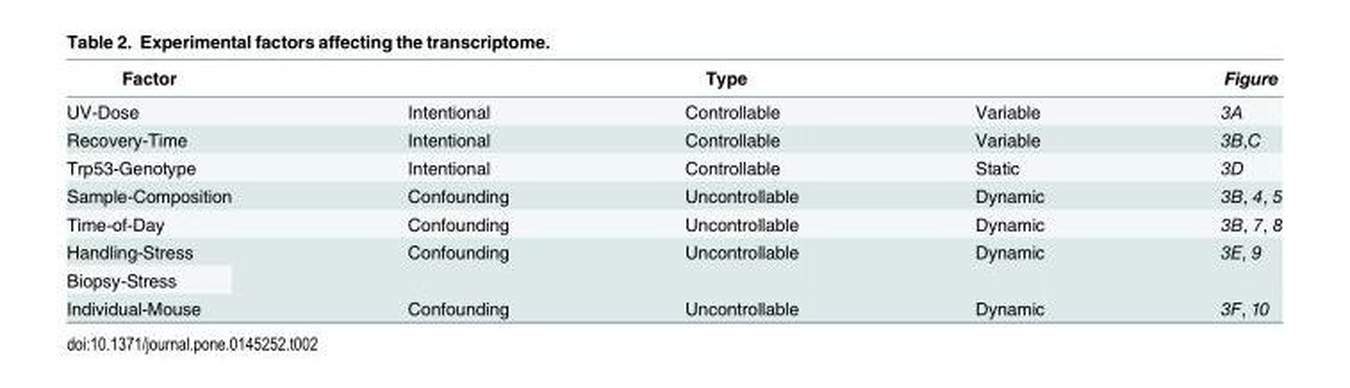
<table><thead><tr><td rowspan="2">Factor UV-Dose</td><td colspan="3">Type</td><td rowspan="2">Figure 3A</td></tr><tr><td>Intentional</td><td>Controllable</td><td>Variable</td></tr></thead><tbody><tr><td>Recovery-Time</td><td>Intentional</td><td>Controllable</td><td>Variable</td><td>3B,C</td></tr><tr><td>Trp53-Genotype</td><td>Intentional</td><td>Controllable</td><td>Static</td><td>3D</td></tr><tr><td>Sample-Composition</td><td>Confounding</td><td>Uncontrollable</td><td>Dynamic</td><td>3B, 4, 5</td></tr><tr><td>Time-of-Day</td><td>Confounding</td><td>Uncontrollable</td><td>Dynamic</td><td>3B, 7, 8</td></tr><tr><td>Handling-Stress</td><td rowspan="2">Confounding</td><td rowspan="2">Uncontrollable</td><td rowspan="2">Dynamic</td><td rowspan="2">3E, 9</td></tr><tr><td>Biopsy-Stress</td></tr><tr><td>Individual-Mouse</td><td>Confounding</td><td>Uncontrollable</td><td>Dynamic</td><td>3F, 10</td></tr></tbody></table>